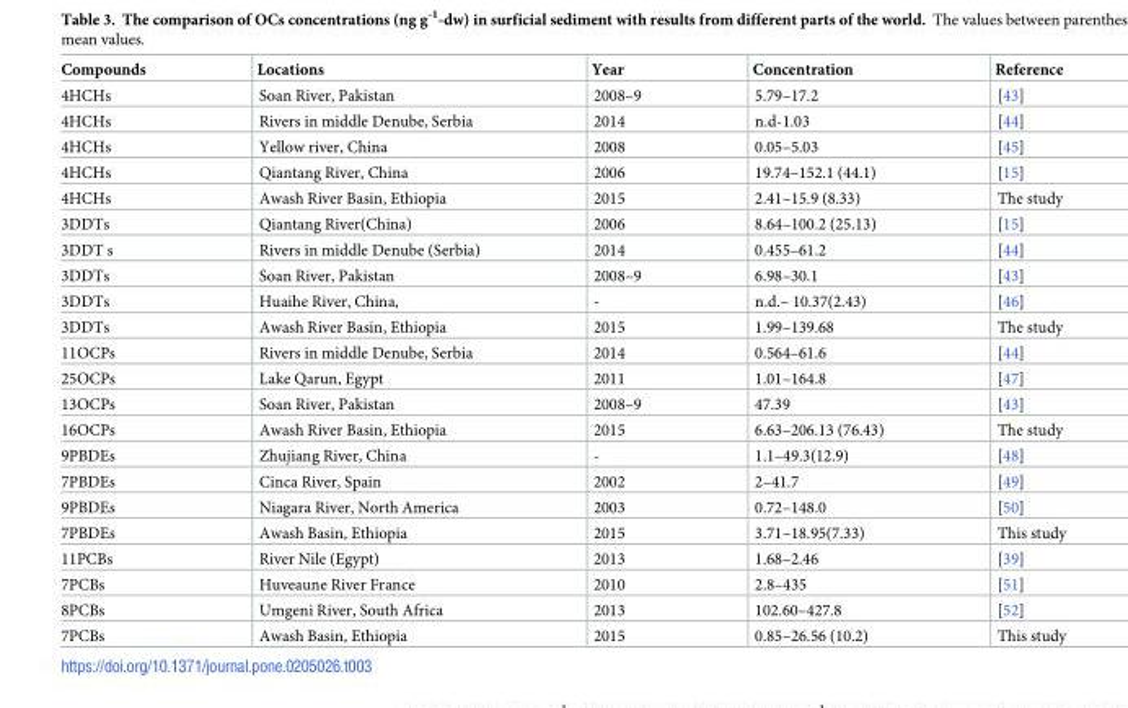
<table><thead><tr><td>Compounds</td><td>Locations</td><td>Year</td><td>Concentration</td><td>Reference</td></tr></thead><tbody><tr><td>4HCHs</td><td>Soan River, Pakistan</td><td>2008–9</td><td>5.79–17.2</td><td>[43]</td></tr><tr><td>4HCHs</td><td>Rivers in middle Denube, Serbia</td><td>2014</td><td>n.d-1.03</td><td>[44]</td></tr><tr><td>4HCHs</td><td>Yellow river, China</td><td>2008</td><td>0.05–5.03</td><td>[45]</td></tr><tr><td>4HCHs</td><td>Qiantang River, China</td><td>2006</td><td>19.74–152.1 (44.1)</td><td>[15]</td></tr><tr><td>4HCHs</td><td>Awash River Basin, Ethiopia</td><td>2015</td><td>2.41–15.9 (8.33)</td><td>The study</td></tr><tr><td>3DDTs</td><td>Qiantang River(China)</td><td>2006</td><td>8.64–100.2 (25.13)</td><td>[15]</td></tr><tr><td>3DDT s</td><td>Rivers in middle Denube (Serbia)</td><td>2014</td><td>0.455–61.2</td><td>[44]</td></tr><tr><td>3DDTs</td><td>Soan River, Pakistan</td><td>2008–9</td><td>6.98–30.1</td><td>[43]</td></tr><tr><td>3DDTs</td><td>Huaihe River, China,</td><td>-</td><td>n.d.– 10.37(2.43)</td><td>[46]</td></tr><tr><td>3DDTs</td><td>Awash River Basin, Ethiopia</td><td>2015</td><td>1.99–139.68</td><td>The study</td></tr><tr><td>11OCPs</td><td>Rivers in middle Denube, Serbia</td><td>2014</td><td>0.564–61.6</td><td>[44]</td></tr><tr><td>25OCPs</td><td>Lake Qarun, Egypt</td><td>2011</td><td>1.01–164.8</td><td>[47]</td></tr><tr><td>13OCPs</td><td>Soan River, Pakistan</td><td>2008–9</td><td>47.39</td><td>[43]</td></tr><tr><td>16OCPs</td><td>Awash River Basin, Ethiopia</td><td>2015</td><td>6.63–206.13 (76.43)</td><td>The study</td></tr><tr><td>9PBDEs</td><td>Zhujiang River, China</td><td>-</td><td>1.1–49.3(12.9)</td><td>[48]</td></tr><tr><td>7PBDEs</td><td>Cinca River, Spain</td><td>2002</td><td>2–41.7</td><td>[49]</td></tr><tr><td>9PBDEs</td><td>Niagara River, North America</td><td>2003</td><td>0.72–148.0</td><td>[50]</td></tr><tr><td>7PBDEs</td><td>Awash Basin, Ethiopia</td><td>2015</td><td>3.71–18.95(7.33)</td><td>This study</td></tr><tr><td>11PCBs</td><td>River Nile (Egypt)</td><td>2013</td><td>1.68–2.46</td><td>[39]</td></tr><tr><td>7PCBs</td><td>Huveaune River France</td><td>2010</td><td>2.8–435</td><td>[51]</td></tr><tr><td>8PCBs</td><td>Umgeni River, South Africa</td><td>2013</td><td>102.60–427.8</td><td>[52]</td></tr><tr><td>7PCBs</td><td>Awash Basin, Ethiopia</td><td>2015</td><td>0.85–26.56 (10.2)</td><td>This study</td></tr></tbody></table>